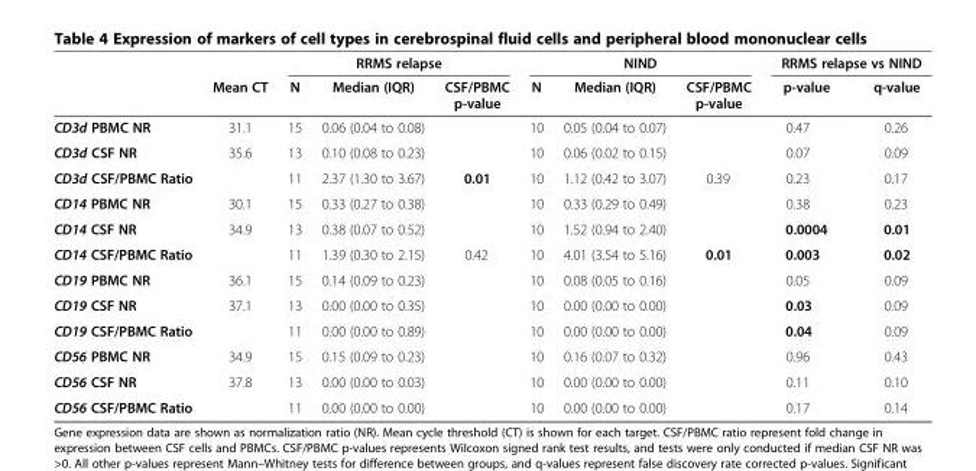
<table><thead><tr><td rowspan="2"></td><td rowspan="2">Mean CT</td><td colspan="3">RRMS relapse</td><td colspan="3">NIND</td><td colspan="2">RRMS relapse vs NIND</td></tr><tr><td>N</td><td>Median (IQR)</td><td>CSF/PBMC p-value</td><td>N</td><td>Median (IQR)</td><td>CSF/PBMC p-value</td><td>p-value</td><td>q-value</td></tr></thead><tbody><tr><td>CD3d PBMC NR</td><td>31.1</td><td>15</td><td>0.06 (0.04 to 0.08)</td><td></td><td>10</td><td>0.05 (0.04 to 0.07)</td><td></td><td>0.47</td><td>0.26</td></tr><tr><td>CD3d CSF NR</td><td>35.6</td><td>13</td><td>0.10 (0.08 to 0.23)</td><td></td><td>10</td><td>0.06 (0.02 to 0.15)</td><td></td><td>0.07</td><td>0.09</td></tr><tr><td>CD3d CSF/PBMC Ratio</td><td></td><td>11</td><td>2.37 (1.30 to 3.67)</td><td>0.01</td><td>10</td><td>1.12 (0.42 to 3.07)</td><td>0.39</td><td>0.23</td><td>0.17</td></tr><tr><td>CD14 PBMC NR</td><td>30.1</td><td>15</td><td>0.33 (0.27 to 0.38)</td><td></td><td>10</td><td>0.33 (0.29 to 0.49)</td><td></td><td>0.38</td><td>0.23</td></tr><tr><td>CD14 CSF NR</td><td>34.9</td><td>13</td><td>0.38 (0.07 to 0.52)</td><td></td><td>10</td><td>1.52 (0.94 to 2.40)</td><td></td><td>0.0004</td><td>0.01</td></tr><tr><td>CD14 CSF/PBMC Ratio</td><td></td><td>11</td><td>1.39 (0.30 to 2.15)</td><td>0.42</td><td>10</td><td>4.01 (3.54 to 5.16)</td><td>0.01</td><td>0.003</td><td>0.02</td></tr><tr><td>CD19 PBMC NR</td><td>36.1</td><td>15</td><td>0.14 (0.09 to 0.23)</td><td></td><td>10</td><td>0.08 (0.05 to 0.16)</td><td></td><td>0.05</td><td>0.09</td></tr><tr><td>CD19 CSF NR</td><td>37.1</td><td>13</td><td>0.00 (0.00 to 0.35)</td><td></td><td>10</td><td>0.00 (0.00 to 0.00)</td><td></td><td>0.03</td><td>0.09</td></tr><tr><td>CD19 CSF/PBMC Ratio</td><td></td><td>11</td><td>0.00 (0.00 to 0.89)</td><td></td><td>10</td><td>0.00 (0.00 to 0.00)</td><td></td><td>0.04</td><td>0.09</td></tr><tr><td>CD56 PBMC NR</td><td>34.9</td><td>15</td><td>0.15 (0.09 to 0.23)</td><td></td><td>10</td><td>0.16 (0.07 to 0.32)</td><td></td><td>0.96</td><td>0.43</td></tr><tr><td>CD56 CSF NR</td><td>37.8</td><td>13</td><td>0.00 (0.00 to 0.03)</td><td></td><td>10</td><td>0.00 (0.00 to 0.00)</td><td></td><td>0.11</td><td>0.10</td></tr><tr><td>CD56 CSF/PBMC Ratio</td><td></td><td>11</td><td>0.00 (0.00 to 0.00)</td><td></td><td>10</td><td>0.00 (0.00 to 0.00)</td><td></td><td>0.17</td><td>0.14</td></tr></tbody></table>